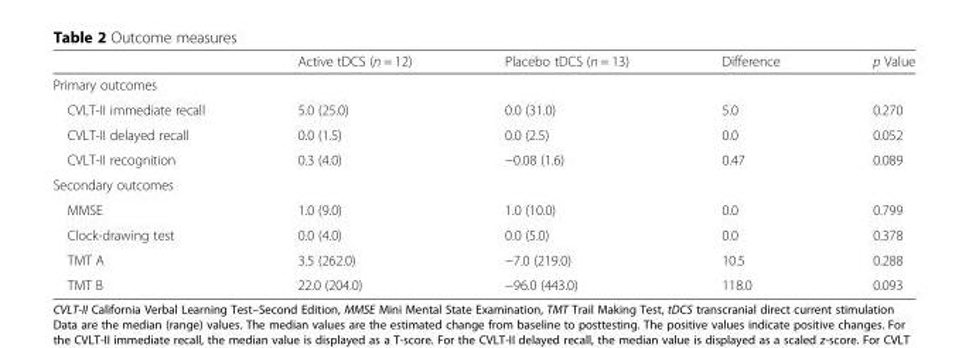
<table><thead><tr><td></td><td>Active tDCS (n = 12)</td><td>Placebo tDCS (n = 13)</td><td>Difference</td><td>p Value</td></tr></thead><tbody><tr><td colspan="5">Primary outcomes</td></tr><tr><td>CVLT-II immediate recall</td><td>5.0 (25.0)</td><td>0.0 (31.0)</td><td>5.0</td><td>0.270</td></tr><tr><td>CVLT-II delayed recall</td><td>0.0 (1.5)</td><td>0.0 (2.5)</td><td>0.0</td><td>0.052</td></tr><tr><td>CVLT-II recognition</td><td>0.3 (4.0)</td><td>−0.08 (1.6)</td><td>0.47</td><td>0.089</td></tr><tr><td colspan="5">Secondary outcomes</td></tr><tr><td>MMSE</td><td>1.0 (9.0)</td><td>1.0 (10.0)</td><td>0.0</td><td>0.799</td></tr><tr><td>Clock-drawing test</td><td>0.0 (4.0)</td><td>0.0 (5.0)</td><td>0.0</td><td>0.378</td></tr><tr><td>TMT A</td><td>3.5 (262.0)</td><td>−7.0 (219.0)</td><td>10.5</td><td>0.288</td></tr><tr><td>TMT B</td><td>22.0 (204.0)</td><td>−96.0 (443.0)</td><td>118.0</td><td>0.093</td></tr></tbody></table>